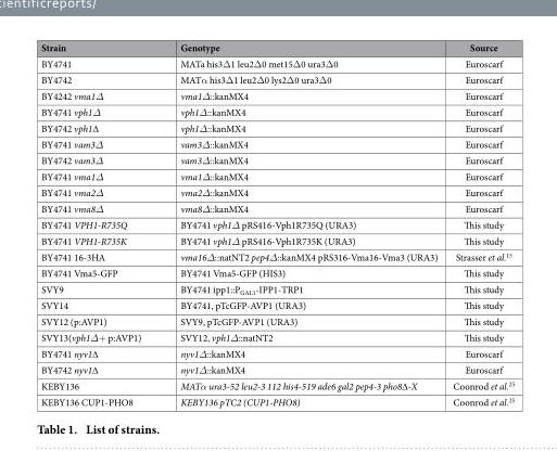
<table><thead><tr><td>Strain</td><td>Genotype</td><td>Source</td></tr></thead><tbody><tr><td>BY4741</td><td>MATa his3Δ1 leu2Δ0 met15Δ0 ura3Δ0</td><td>Euroscarf</td></tr><tr><td>BY4742</td><td>MATα his3Δ1 leu2Δ0 lys2Δ0 ura3Δ0</td><td>Euroscarf</td></tr><tr><td>BY4242 vma1Δ</td><td>vma1Δ::kanMX4</td><td>Euroscarf</td></tr><tr><td>BY4741 vph1Δ</td><td>vph1Δ::kanMX4</td><td>Euroscarf</td></tr><tr><td>BY4742 vph1∆</td><td>vph1Δ::kanMX4</td><td>Euroscarf</td></tr><tr><td>BY4741 vam3Δ</td><td>vam3Δ::kanMX4</td><td>Euroscarf</td></tr><tr><td>BY4742 vam3Δ</td><td>vam3Δ::kanMX4</td><td>Euroscarf</td></tr><tr><td>BY4741 vma1Δ</td><td>vma1Δ::kanMX4</td><td>Euroscarf</td></tr><tr><td>BY4741 vma2Δ</td><td>vma2Δ::kanMX4</td><td>Euroscarf</td></tr><tr><td>BY4741 vma8Δ</td><td>vma8Δ::kanMX4</td><td>Euroscarf</td></tr><tr><td>BY4741 VPH1-R735Q</td><td>BY4741 vph1Δ pRS416-Vph1R735Q (URA3)</td><td>This study</td></tr><tr><td>BY4741 VPH1-R735K</td><td>BY4741 vph1Δ pRS416-Vph1R735K (URA3)</td><td>This study</td></tr><tr><td>BY4741 16-3HA</td><td>vma16Δ::natNT2 pep4Δ::kanMX4 pRS316-Vma16-Vma3 (URA3)</td><td>Strasser et al.<sup>15</sup></td></tr><tr><td>BY4741 Vma5-GFP</td><td>BY4741 Vma5-GFP (HIS3)</td><td>This study</td></tr><tr><td>SVY9</td><td>BY4741 ipp1::P<sub>GAL1</sub>-IPP1-TRP1</td><td>This study</td></tr><tr><td>SVY14</td><td>BY4741, pTcGFP-AVP1 (URA3)</td><td>This study</td></tr><tr><td>SVY12 (p:AVP1)</td><td>SVY9, pTcGFP-AVP1 (URA3)</td><td>This study</td></tr><tr><td>SVY13(vph1Δ+ p:AVP1)</td><td>SVY12, vph1Δ::natNT2</td><td>This study</td></tr><tr><td>BY4741 nyv1∆</td><td>nyv1Δ::kanMX4</td><td>Euroscarf</td></tr><tr><td>BY4742 nyv1∆</td><td>nyv1Δ::kanMX4</td><td>Euroscarf</td></tr><tr><td>KEBY136</td><td>MATα ura3-52 leu2-3 112 his4-519 ade6 gal2 pep4-3 pho8∆-X</td><td>Coonrod et al.<sup>25</sup></td></tr><tr><td>KEBY136 CUP1-PHO8</td><td>KEBY136 pTC2 (CUP1-PHO8)</td><td>Coonrod et al.<sup>25</sup></td></tr></tbody></table>